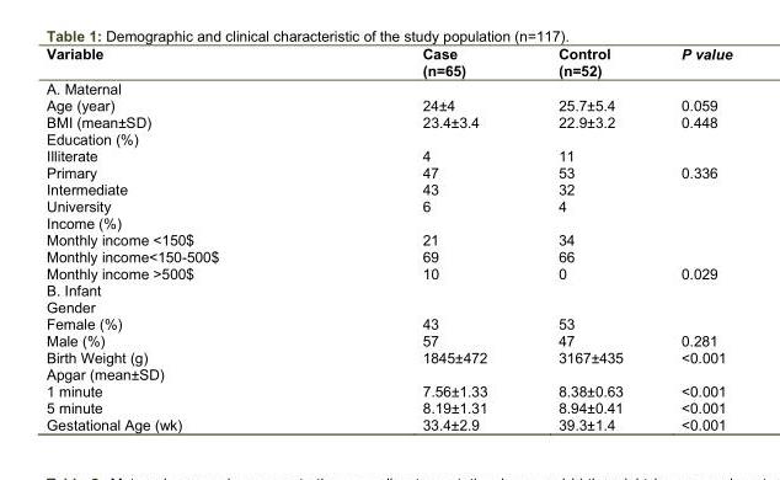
<table><thead><tr><td>Variable</td><td>Case (n=65)</td><td>Control (n=52)</td><td>P value</td></tr></thead><tbody><tr><td colspan="4">A. Maternal</td></tr><tr><td>Age (year)</td><td>24±4</td><td>25.7±5.4</td><td>0.059</td></tr><tr><td>BMI (mean±SD)</td><td>23.4±3.4</td><td>22.9±3.2</td><td>0.448</td></tr><tr><td colspan="4">Education (%)</td></tr><tr><td>Illiterate</td><td>4</td><td>11</td><td rowspan="4">0.336</td></tr><tr><td>Primary</td><td>47</td><td>53</td></tr><tr><td>Intermediate</td><td>43</td><td>32</td></tr><tr><td>University</td><td>6</td><td>4</td></tr><tr><td colspan="4">Income (%)</td></tr><tr><td>Monthly income &lt;150$</td><td>21</td><td>34</td><td rowspan="3">0.029</td></tr><tr><td>Monthly income&lt;150-500$</td><td>69</td><td>66</td></tr><tr><td>Monthly income &gt;500$</td><td>10</td><td>0</td></tr><tr><td colspan="4">B. Infant</td></tr><tr><td colspan="4">Gender</td></tr><tr><td>Female (%)</td><td>43</td><td>53</td><td rowspan="2">0.281</td></tr><tr><td>Male (%)</td><td>57</td><td>47</td></tr><tr><td>Birth Weight (g)</td><td>1845±472</td><td>3167±435</td><td>&lt;0.001</td></tr><tr><td colspan="4">Apgar (mean±SD)</td></tr><tr><td>1 minute</td><td>7.56±1.33</td><td>8.38±0.63</td><td>&lt;0.001</td></tr><tr><td>5 minute</td><td>8.19±1.31</td><td>8.94±0.41</td><td>&lt;0.001</td></tr><tr><td>Gestational Age (wk)</td><td>33.4±2.9</td><td>39.3±1.4</td><td>&lt;0.001</td></tr></tbody></table>